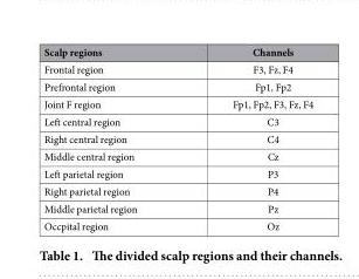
<table><thead><tr><td>Scalp regions</td><td>Channels</td></tr></thead><tbody><tr><td>Frontal region</td><td>F3, Fz, F4</td></tr><tr><td>Prefrontal region</td><td>Fp1, Fp2</td></tr><tr><td>Joint F region</td><td>Fp1, Fp2, F3, Fz, F4</td></tr><tr><td>Left central region</td><td>C3</td></tr><tr><td>Right central region</td><td>C4</td></tr><tr><td>Middle central region</td><td>Cz</td></tr><tr><td>Left parietal region</td><td>P3</td></tr><tr><td>Right parietal region</td><td>P4</td></tr><tr><td>Middle parietal region</td><td>Pz</td></tr><tr><td>Occpital region</td><td>Oz</td></tr></tbody></table>